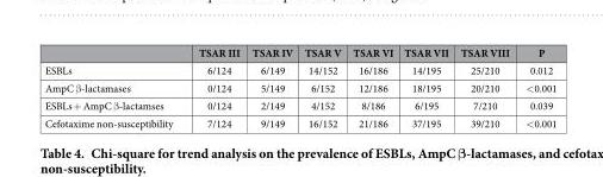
<table><thead><tr><td></td><td>TSAR III</td><td>TSAR IV</td><td>TSAR V</td><td>TSAR VI</td><td>TSAR VII</td><td>TSAR VIII</td><td>P</td></tr></thead><tbody><tr><td>ESBLs</td><td>6/124</td><td>6/149</td><td>14/152</td><td>16/186</td><td>14/195</td><td>25/210</td><td>0.012</td></tr><tr><td>AmpC β -lactamases</td><td>0/124</td><td>5/149</td><td>6/152</td><td>12/186</td><td>18/195</td><td>20/210</td><td>&lt; 0.001</td></tr><tr><td>ESBLs + AmpC β -lactamses</td><td>0/124</td><td>2/149</td><td>4/152</td><td>8/186</td><td>6/195</td><td>7/210</td><td>0.039</td></tr><tr><td>Cefotaxime non-susceptibility</td><td>7/124</td><td>9/149</td><td>16/152</td><td>21/186</td><td>37/195</td><td>39/210</td><td>&lt; 0.001</td></tr></tbody></table>